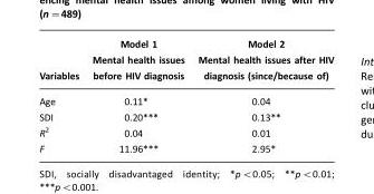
<table><thead><tr><td>Variables</td><td>Model 1 Mental health issues before HIV diagnosis</td><td>Model 2 Mental health issues after HIV diagnosis (since/because of)</td></tr></thead><tbody><tr><td>Age</td><td>0.11*</td><td>0.04</td></tr><tr><td>SDI</td><td>0.20***</td><td>0.13**</td></tr><tr><td>R<sup>2</sup></td><td>0.04</td><td>0.01</td></tr><tr><td>F</td><td>11.96***</td><td>2.95*</td></tr></tbody></table>